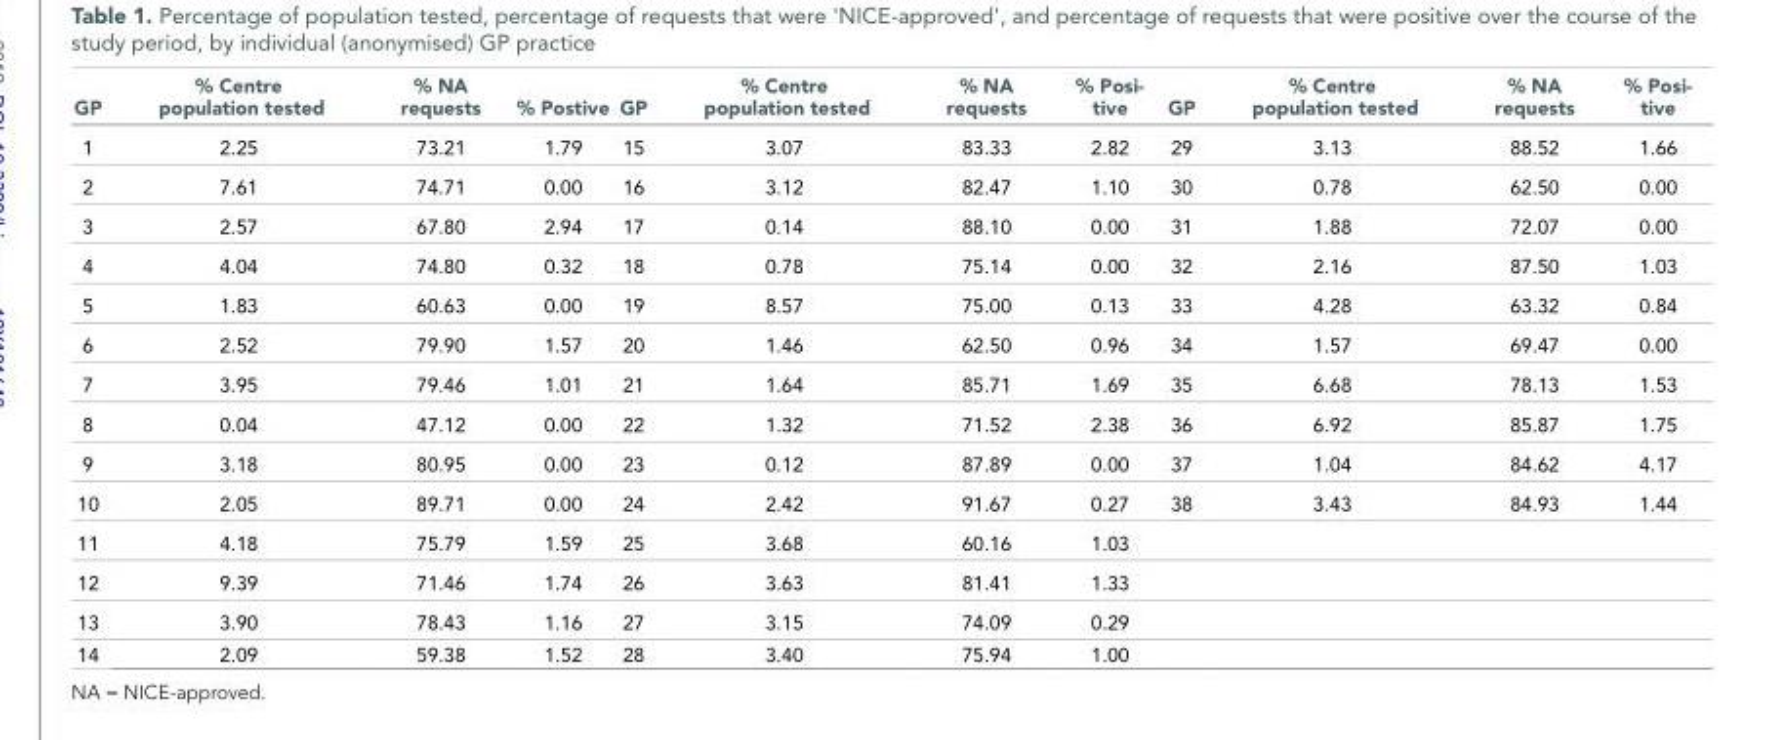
<table><thead><tr><td>GP</td><td>% Centre population tested</td><td>% NA requests</td><td>% Postive</td><td>GP</td><td>% Centre population tested</td><td>% NA requests</td><td>% Posi- tive</td><td>GP</td><td>% Centre population tested</td><td>% NA requests</td><td>% Posi- tive</td></tr></thead><tbody><tr><td>1</td><td>2.25</td><td>73.21</td><td>1.79</td><td>15</td><td>3.07</td><td>83.33</td><td>2.82</td><td>29</td><td>3.13</td><td>88.52</td><td>1.66</td></tr><tr><td>2</td><td>7.61</td><td>74.71</td><td>0.00</td><td>16</td><td>3.12</td><td>82.47</td><td>1.10</td><td>30</td><td>0.78</td><td>62.50</td><td>0.00</td></tr><tr><td>3</td><td>2.57</td><td>67.80</td><td>2.94</td><td>17</td><td>0.14</td><td>88.10</td><td>0.00</td><td>31</td><td>1.88</td><td>72.07</td><td>0.00</td></tr><tr><td>4</td><td>4.04</td><td>74.80</td><td>0.32</td><td>18</td><td>0.78</td><td>75.14</td><td>0.00</td><td>32</td><td>2.16</td><td>87.50</td><td>1.03</td></tr><tr><td>5</td><td>1.83</td><td>60.63</td><td>0.00</td><td>19</td><td>8.57</td><td>75.00</td><td>0.13</td><td>33</td><td>4.28</td><td>63.32</td><td>0.84</td></tr><tr><td>6</td><td>2.52</td><td>79.90</td><td>1.57</td><td>20</td><td>1.46</td><td>62.50</td><td>0.96</td><td>34</td><td>1.57</td><td>69.47</td><td>0.00</td></tr><tr><td>7</td><td>3.95</td><td>79.46</td><td>1.01</td><td>21</td><td>1.64</td><td>85.71</td><td>1.69</td><td>35</td><td>6.68</td><td>78.13</td><td>1.53</td></tr><tr><td>8</td><td>0.04</td><td>47.12</td><td>0.00</td><td>22</td><td>1.32</td><td>71.52</td><td>2.38</td><td>36</td><td>6.92</td><td>85.87</td><td>1.75</td></tr><tr><td>9</td><td>3.18</td><td>80.95</td><td>0.00</td><td>23</td><td>0.12</td><td>87.89</td><td>0.00</td><td>37</td><td>1.04</td><td>84.62</td><td>4.17</td></tr><tr><td>10</td><td>2.05</td><td>89.71</td><td>0.00</td><td>24</td><td>2.42</td><td>91.67</td><td>0.27</td><td>38</td><td>3.43</td><td>84.93</td><td>1.44</td></tr><tr><td>11</td><td>4.18</td><td>75.79</td><td>1.59</td><td>25</td><td>3.68</td><td>60.16</td><td>1.03</td><td></td><td></td><td></td><td></td></tr><tr><td>12</td><td>9.39</td><td>71.46</td><td>1.74</td><td>26</td><td>3.63</td><td>81.41</td><td>1.33</td><td></td><td></td><td></td><td></td></tr><tr><td>13</td><td>3.90</td><td>78.43</td><td>1.16</td><td>27</td><td>3.15</td><td>74.09</td><td>0.29</td><td></td><td></td><td></td><td></td></tr><tr><td>14</td><td>2.09</td><td>59.38</td><td>1.52</td><td>28</td><td>3.40</td><td>75.94</td><td>1.00</td><td></td><td></td><td></td><td></td></tr></tbody></table>